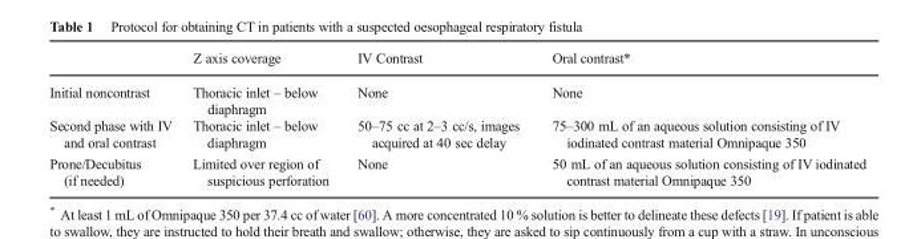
<table><thead><tr><td></td><td>Z axis coverage</td><td>IV Contrast</td><td>Oral contrast*</td></tr></thead><tbody><tr><td>Initial noncontrast</td><td>Thoracic inlet – below diaphragm</td><td>None</td><td>None</td></tr><tr><td>Second phase with IV and oral contrast</td><td>Thoracic inlet – below diaphragm</td><td>50–75 cc at 2–3 cc/s, images acquired at 40 sec delay</td><td>75–300 mL of an aqueous solution consisting of IV iodinated contrast material Omnipaque 350</td></tr><tr><td>Prone/Decubitus (if needed)</td><td>Limited over region of suspicious perforation</td><td>None</td><td>50 mL of an aqueous solution consisting of IV iodinated contrast material Omnipaque 350</td></tr></tbody></table>